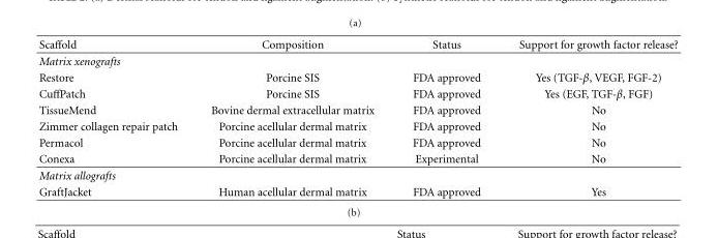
<table><thead><tr><td>Scaffold</td><td>Composition</td><td>Status</td><td>Support for growth factor release?</td></tr></thead><tbody><tr><td colspan="4">Matrix xenografts</td></tr><tr><td>Restore</td><td>Porcine SIS</td><td>FDA approved</td><td>Yes (TGF-β, VEGF, FGF-2)</td></tr><tr><td>CuffPatch</td><td>Porcine SIS</td><td>FDA approved</td><td>Yes (EGF, TGF-β, FGF)</td></tr><tr><td>TissueMend</td><td>Bovine dermal extracellular matrix</td><td>FDA approved</td><td>No</td></tr><tr><td>Zimmer collagen repair patch</td><td>Porcine acellular dermal matrix</td><td>FDA approved</td><td>No</td></tr><tr><td>Permacol</td><td>Porcine acellular dermal matrix</td><td>FDA approved</td><td>No</td></tr><tr><td>Conexa</td><td>Porcine acellular dermal matrix</td><td>Experimental</td><td>No</td></tr><tr><td colspan="4">Matrix allografts</td></tr><tr><td>GraftJacket</td><td>Human acellular dermal matrix</td><td>FDA approved</td><td>Yes</td></tr></tbody></table>